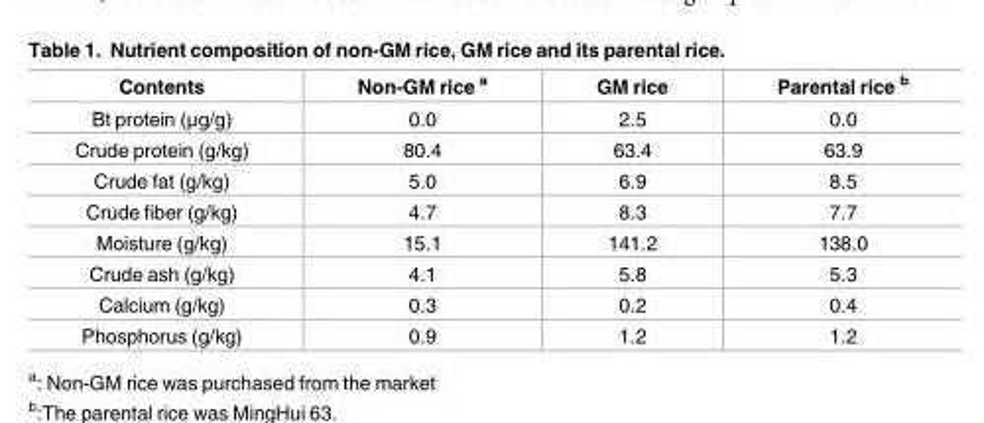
<table><thead><tr><td>Contents</td><td>Non-GM rice <sup>a</sup></td><td>GM rice</td><td>Parental rice <sup>b</sup></td></tr></thead><tbody><tr><td>Bt protein (μg/g)</td><td>0.0</td><td>2.5</td><td>0.0</td></tr><tr><td>Crude protein (g/kg)</td><td>80.4</td><td>63.4</td><td>63.9</td></tr><tr><td>Crude fat (g/kg)</td><td>5.0</td><td>6.9</td><td>8.5</td></tr><tr><td>Crude fiber (g/kg)</td><td>4.7</td><td>8.3</td><td>7.7</td></tr><tr><td>Moisture (g/kg)</td><td>15.1</td><td>141.2</td><td>138.0</td></tr><tr><td>Crude ash (g/kg)</td><td>4.1</td><td>5.8</td><td>5.3</td></tr><tr><td>Calcium (g/kg)</td><td>0.3</td><td>0.2</td><td>0.4</td></tr><tr><td>Phosphorus (g/kg)</td><td>0.9</td><td>1.2</td><td>1.2</td></tr></tbody></table>